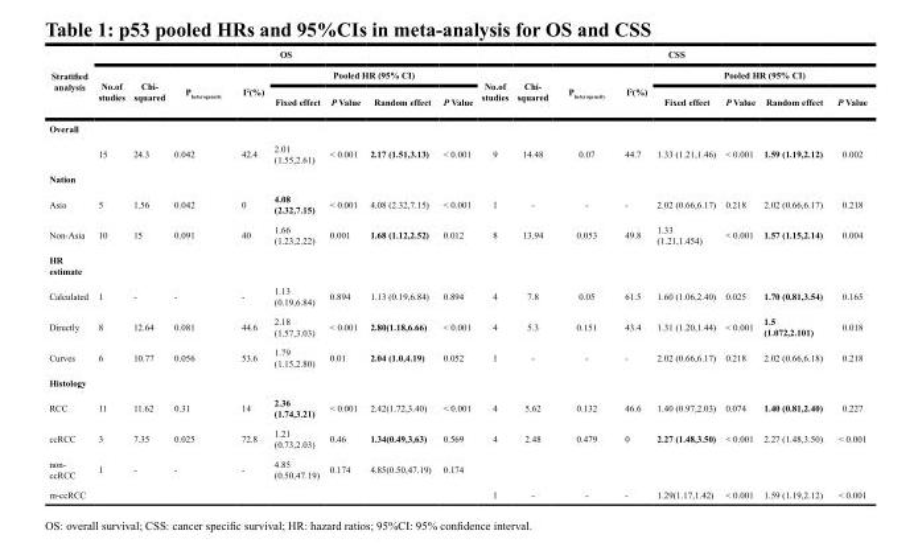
<table><thead><tr><td rowspan="3">Stratified analysis</td><td colspan="8">OS</td><td colspan="8">CSS</td></tr><tr><td rowspan="2">No.of studies</td><td rowspan="2">Chi- squared</td><td rowspan="2">P<sub>heterogeneity</sub></td><td rowspan="2">I<sup>2</sup>(%)</td><td colspan="4">Pooled HR (95% CI)</td><td rowspan="2">No.of studies</td><td rowspan="2">Chi- squared</td><td rowspan="2">P<sub>heterogeneity</sub></td><td rowspan="2">I<sup>2</sup>(%)</td><td colspan="4">Pooled HR (95% CI)</td></tr><tr><td>Fixed effect</td><td>P Value</td><td>Random effect</td><td>P Value</td><td>Fixed effect</td><td>P Value</td><td>Random effect</td><td>P Value</td></tr></thead><tbody><tr><td colspan="17">Overall</td></tr><tr><td></td><td>15</td><td>24.3</td><td>0.042</td><td>42.4</td><td>2.01 (1.55,2.61)</td><td>&lt; 0.001</td><td>2.17 (1.51,3.13)</td><td>&lt; 0.001</td><td>9</td><td>14.48</td><td>0.07</td><td>44.7</td><td>1.33 (1.21,1.46)</td><td>&lt; 0.001</td><td>1.59 (1.19,2.12)</td><td>0.002</td></tr><tr><td colspan="17">Nation</td></tr><tr><td>Asia</td><td>5</td><td>1.56</td><td>0.042</td><td>0</td><td>4.08 (2.32,7.15)</td><td>&lt; 0.001</td><td>4.08 (2.32,7.15)</td><td>&lt; 0.001</td><td>1</td><td>-</td><td>-</td><td>-</td><td>2.02 (0.66,6.17)</td><td>0.218</td><td>2.02 (0.66,6.17)</td><td>0.218</td></tr><tr><td>Non-Asia</td><td>10</td><td>15</td><td>0.091</td><td>40</td><td>1.66 (1.23,2.22)</td><td>0.001</td><td>1.68 (1.12,2.52)</td><td>0.012</td><td>8</td><td>13.94</td><td>0.053</td><td>49.8</td><td>1.33 (1.21,1.454)</td><td>&lt; 0.001</td><td>1.57 (1.15,2.14)</td><td>0.004</td></tr><tr><td colspan="17">HR estimate</td></tr><tr><td>Calculated</td><td>1</td><td>-</td><td>-</td><td>-</td><td>1.13 (0.19,6.84)</td><td>0.894</td><td>1.13 (0.19,6.84)</td><td>0.894</td><td>4</td><td>7.8</td><td>0.05</td><td>61.5</td><td>1.60 (1.06,2.40)</td><td>0.025</td><td>1.70 (0.81,3.54)</td><td>0.165</td></tr><tr><td>Directly</td><td>8</td><td>12.64</td><td>0.081</td><td>44.6</td><td>2.18 (1.57,3.03)</td><td>&lt; 0.001</td><td>2.80(1.18,6.66)</td><td>&lt; 0.001</td><td>4</td><td>5.3</td><td>0.151</td><td>43.4</td><td>1.31 (1.20,1.44)</td><td>&lt; 0.001</td><td>1.5 (1.072,2.101)</td><td>0.018</td></tr><tr><td>Curves</td><td>6</td><td>10.77</td><td>0.056</td><td>53.6</td><td>1.79 (1.15,2.80)</td><td>0.01</td><td>2.04 (1.0,4.19)</td><td>0.052</td><td>1</td><td>-</td><td>-</td><td>-</td><td>2.02 (0.66,6.17)</td><td>0.218</td><td>2.02 (0.66,6.18)</td><td>0.218</td></tr><tr><td colspan="17">Histology</td></tr><tr><td>RCC</td><td>11</td><td>11.62</td><td>0.31</td><td>14</td><td>2.36 (1.74,3.21)</td><td>&lt; 0.001</td><td>2.42(1.72,3.40)</td><td>&lt; 0.001</td><td>4</td><td>5.62</td><td>0.132</td><td>46.6</td><td>1.40 (0.97,2.03)</td><td>0.074</td><td>1.40 (0.81,2.40)</td><td>0.227</td></tr><tr><td>ccRCC</td><td>3</td><td>7.35</td><td>0.025</td><td>72.8</td><td>1.21 (0.73,2.03)</td><td>0.46</td><td>1.34(0.49,3,63)</td><td>0.569</td><td>4</td><td>2.48</td><td>0.479</td><td>0</td><td>2.27 (1.48,3.50)</td><td>&lt; 0.001</td><td>2.27 (1.48,3.50)</td><td>&lt; 0.001</td></tr><tr><td>non- ccRCC</td><td>1</td><td>-</td><td>-</td><td>-</td><td>4.85 (0.50,47.19)</td><td>0.174</td><td>4.85(0.50,47.19)</td><td>0.174</td><td></td><td></td><td></td><td></td><td></td><td></td><td></td><td></td></tr><tr><td>m-ccRCC</td><td></td><td></td><td></td><td></td><td></td><td></td><td></td><td></td><td>1</td><td>-</td><td>-</td><td>-</td><td>1.29(1.17,1.42)</td><td>&lt; 0.001</td><td>1.59 (1.19,2.12)</td><td>&lt; 0.001</td></tr></tbody></table>